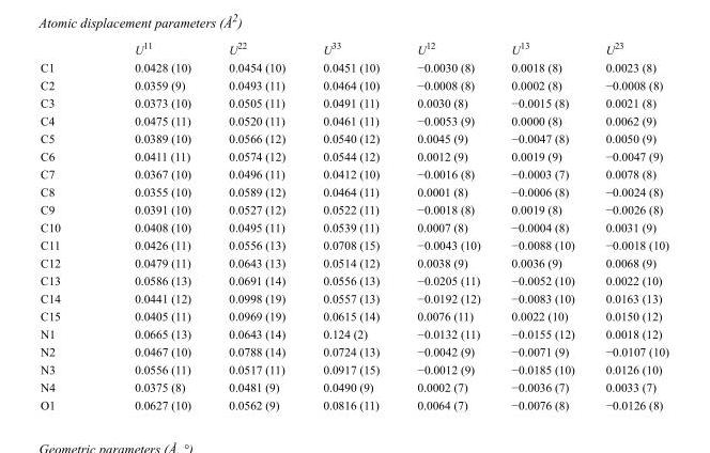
<table><thead><tr><td></td><td>U<sup>11</sup></td><td>U<sup>22</sup></td><td>U<sup>33</sup></td><td>U<sup>12</sup></td><td>U<sup>13</sup></td><td>U<sup>23</sup></td></tr></thead><tbody><tr><td>C1</td><td>0.0428 (10)</td><td>0.0454 (10)</td><td>0.0451 (10)</td><td>−0.0030 (8)</td><td>0.0018 (8)</td><td>0.0023 (8)</td></tr><tr><td>C2</td><td>0.0359 (9)</td><td>0.0493 (11)</td><td>0.0464 (10)</td><td>−0.0008 (8)</td><td>0.0002 (8)</td><td>−0.0008 (8)</td></tr><tr><td>C3</td><td>0.0373 (10)</td><td>0.0505 (11)</td><td>0.0491 (11)</td><td>0.0030 (8)</td><td>−0.0015 (8)</td><td>0.0021 (8)</td></tr><tr><td>C4</td><td>0.0475 (11)</td><td>0.0520 (11)</td><td>0.0461 (11)</td><td>−0.0053 (9)</td><td>0.0000 (8)</td><td>0.0062 (9)</td></tr><tr><td>C5</td><td>0.0389 (10)</td><td>0.0566 (12)</td><td>0.0540 (12)</td><td>0.0045 (9)</td><td>−0.0047 (8)</td><td>0.0050 (9)</td></tr><tr><td>C6</td><td>0.0411 (11)</td><td>0.0574 (12)</td><td>0.0544 (12)</td><td>0.0012 (9)</td><td>0.0019 (9)</td><td>−0.0047 (9)</td></tr><tr><td>C7</td><td>0.0367 (10)</td><td>0.0496 (11)</td><td>0.0412 (10)</td><td>−0.0016 (8)</td><td>−0.0003 (7)</td><td>0.0078 (8)</td></tr><tr><td>C8</td><td>0.0355 (10)</td><td>0.0589 (12)</td><td>0.0464 (11)</td><td>0.0001 (8)</td><td>−0.0006 (8)</td><td>−0.0024 (8)</td></tr><tr><td>C9</td><td>0.0391 (10)</td><td>0.0527 (12)</td><td>0.0522 (11)</td><td>−0.0018 (8)</td><td>0.0019 (8)</td><td>−0.0026 (8)</td></tr><tr><td>C10</td><td>0.0408 (10)</td><td>0.0495 (11)</td><td>0.0539 (11)</td><td>0.0007 (8)</td><td>−0.0004 (8)</td><td>0.0031 (9)</td></tr><tr><td>C11</td><td>0.0426 (11)</td><td>0.0556 (13)</td><td>0.0708 (15)</td><td>−0.0043 (10)</td><td>−0.0088 (10)</td><td>−0.0018 (10)</td></tr><tr><td>C12</td><td>0.0479 (11)</td><td>0.0643 (13)</td><td>0.0514 (12)</td><td>0.0038 (9)</td><td>0.0036 (9)</td><td>0.0068 (9)</td></tr><tr><td>C13</td><td>0.0586 (13)</td><td>0.0691 (14)</td><td>0.0556 (13)</td><td>−0.0205 (11)</td><td>−0.0052 (10)</td><td>0.0022 (10)</td></tr><tr><td>C14</td><td>0.0441 (12)</td><td>0.0998 (19)</td><td>0.0557 (13)</td><td>−0.0192 (12)</td><td>−0.0083 (10)</td><td>0.0163 (13)</td></tr><tr><td>C15</td><td>0.0405 (11)</td><td>0.0969 (19)</td><td>0.0615 (14)</td><td>0.0076 (11)</td><td>0.0022 (10)</td><td>0.0150 (12)</td></tr><tr><td>N1</td><td>0.0665 (13)</td><td>0.0643 (14)</td><td>0.124 (2)</td><td>−0.0132 (11)</td><td>−0.0155 (12)</td><td>0.0018 (12)</td></tr><tr><td>N2</td><td>0.0467 (10)</td><td>0.0788 (14)</td><td>0.0724 (13)</td><td>−0.0042 (9)</td><td>−0.0071 (9)</td><td>−0.0107 (10)</td></tr><tr><td>N3</td><td>0.0556 (11)</td><td>0.0517 (11)</td><td>0.0917 (15)</td><td>−0.0012 (9)</td><td>−0.0185 (10)</td><td>0.0126 (10)</td></tr><tr><td>N4</td><td>0.0375 (8)</td><td>0.0481 (9)</td><td>0.0490 (9)</td><td>0.0002 (7)</td><td>−0.0036 (7)</td><td>0.0033 (7)</td></tr><tr><td>O1</td><td>0.0627 (10)</td><td>0.0562 (9)</td><td>0.0816 (11)</td><td>0.0064 (7)</td><td>−0.0076 (8)</td><td>−0.0126 (8)</td></tr></tbody></table>